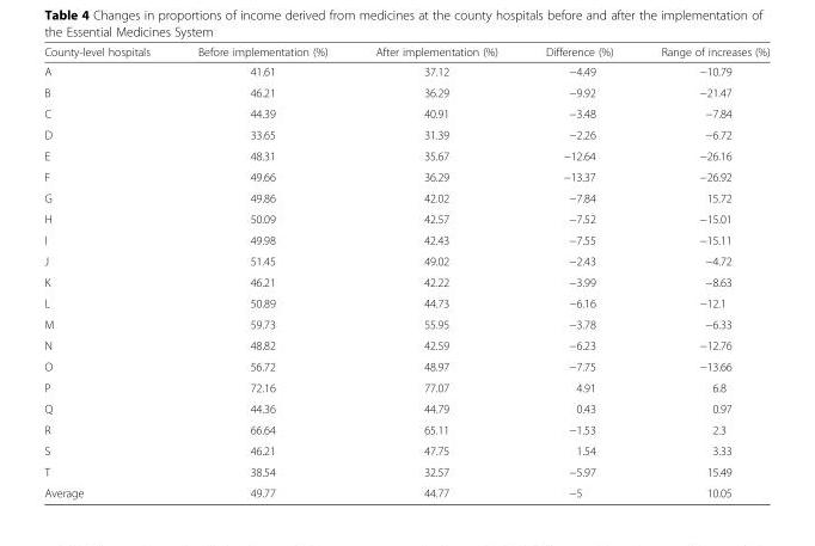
<table><thead><tr><td>County-level hospitals</td><td>Before implementation (%)</td><td>After implementation (%)</td><td>Difference (%)</td><td>Range of increases (%)</td></tr></thead><tbody><tr><td>A</td><td>41.61</td><td>37.12</td><td>−4.49</td><td>−10.79</td></tr><tr><td>B</td><td>46.21</td><td>36.29</td><td>−9.92</td><td>−21.47</td></tr><tr><td>C</td><td>44.39</td><td>40.91</td><td>−3.48</td><td>−7.84</td></tr><tr><td>D</td><td>33.65</td><td>31.39</td><td>−2.26</td><td>−6.72</td></tr><tr><td>E</td><td>48.31</td><td>35.67</td><td>−12.64</td><td>−26.16</td></tr><tr><td>F</td><td>49.66</td><td>36.29</td><td>−13.37</td><td>−26.92</td></tr><tr><td>G</td><td>49.86</td><td>42.02</td><td>−7.84</td><td>15.72</td></tr><tr><td>H</td><td>50.09</td><td>42.57</td><td>−7.52</td><td>−15.01</td></tr><tr><td>I</td><td>49.98</td><td>42.43</td><td>−7.55</td><td>−15.11</td></tr><tr><td>J</td><td>51.45</td><td>49.02</td><td>−2.43</td><td>−4.72</td></tr><tr><td>K</td><td>46.21</td><td>42.22</td><td>−3.99</td><td>−8.63</td></tr><tr><td>L</td><td>50.89</td><td>44.73</td><td>−6.16</td><td>−12.1</td></tr><tr><td>M</td><td>59.73</td><td>55.95</td><td>−3.78</td><td>−6.33</td></tr><tr><td>N</td><td>48.82</td><td>42.59</td><td>−6.23</td><td>−12.76</td></tr><tr><td>O</td><td>56.72</td><td>48.97</td><td>−7.75</td><td>−13.66</td></tr><tr><td>P</td><td>72.16</td><td>77.07</td><td>4.91</td><td>6.8</td></tr><tr><td>Q</td><td>44.36</td><td>44.79</td><td>0.43</td><td>0.97</td></tr><tr><td>R</td><td>66.64</td><td>65.11</td><td>−1.53</td><td>2.3</td></tr><tr><td>S</td><td>46.21</td><td>47.75</td><td>1.54</td><td>3.33</td></tr><tr><td>T</td><td>38.54</td><td>32.57</td><td>−5.97</td><td>15.49</td></tr><tr><td>Average</td><td>49.77</td><td>44.77</td><td>−5</td><td>10.05</td></tr></tbody></table>